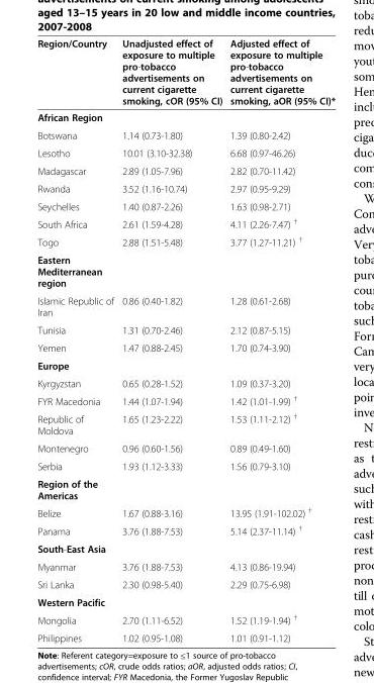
<table><thead><tr><td>Region/Country</td><td>Unadjusted effect of exposure to multiple pro-tobacco advertisements on current cigarette smoking, cOR (95% CI)</td><td>Adjusted effect of exposure to multiple pro-tobacco advertisements on current cigarette smoking, aOR (95% CI)*</td></tr></thead><tbody><tr><td colspan="3">African Region</td></tr><tr><td>Botswana</td><td>1.14 (0.73-1.80)</td><td>1.39 (0.80-2.42)</td></tr><tr><td>Lesotho</td><td>10.01 (3.10-32.38)</td><td>6.68 (0.97-46.26)</td></tr><tr><td>Madagascar</td><td>2.89 (1.05-7.96)</td><td>2.82 (0.70-11.42)</td></tr><tr><td>Rwanda</td><td>3.52 (1.16-10.74)</td><td>2.97 (0.95-9.29)</td></tr><tr><td>Seychelles</td><td>1.40 (0.87-2.26)</td><td>1.63 (0.98-2.71)</td></tr><tr><td>South Africa</td><td>2.61 (1.59-4.28)</td><td>4.11 (2.26-7.47) <sup>†</sup></td></tr><tr><td>Togo</td><td>2.88 (1.51-5.48)</td><td>3.77 (1.27-11.21) <sup>†</sup></td></tr><tr><td colspan="3">Eastern Mediterranean region</td></tr><tr><td>Islamic Republic of Iran</td><td>0.86 (0.40-1.82)</td><td>1.28 (0.61-2.68)</td></tr><tr><td>Tunisia</td><td>1.31 (0.70-2.46)</td><td>2.12 (0.87-5.15)</td></tr><tr><td>Yemen</td><td>1.47 (0.88-2.45)</td><td>1.70 (0.74-3.90)</td></tr><tr><td colspan="3">Europe</td></tr><tr><td>Kyrgyzstan</td><td>0.65 (0.28-1.52)</td><td>1.09 (0.37-3.20)</td></tr><tr><td>FYR Macedonia</td><td>1.44 (1.07-1.94)</td><td>1.42 (1.01-1.99) <sup>†</sup></td></tr><tr><td>Republic of Moldova</td><td>1.65 (1.23-2.22)</td><td>1.53 (1.11-2.12) <sup>†</sup></td></tr><tr><td>Montenegro</td><td>0.96 (0.60-1.56)</td><td>0.89 (0.49-1.60)</td></tr><tr><td>Serbia</td><td>1.93 (1.12-3.33)</td><td>1.56 (0.79-3.10)</td></tr><tr><td colspan="3">Region of the Americas</td></tr><tr><td>Belize</td><td>1.67 (0.88-3.16)</td><td>13.95 (1.91-102.02) <sup>†</sup></td></tr><tr><td>Panama</td><td>3.76 (1.88-7.53)</td><td>5.14 (2.37-11.14) <sup>†</sup></td></tr><tr><td colspan="3">South-East Asia</td></tr><tr><td>Myanmar</td><td>3.76 (1.88-7.53)</td><td>4.13 (0.86-19.94)</td></tr><tr><td>Sri Lanka</td><td>2.30 (0.98-5.40)</td><td>2.29 (0.75-6.98)</td></tr><tr><td colspan="3">Western Pacific</td></tr><tr><td>Mongolia</td><td>2.70 (1.11-6.52)</td><td>1.52 (1.19-1.94) <sup>†</sup></td></tr><tr><td>Philippines</td><td>1.02 (0.95-1.08)</td><td>1.01 (0.91-1.12)</td></tr></tbody></table>